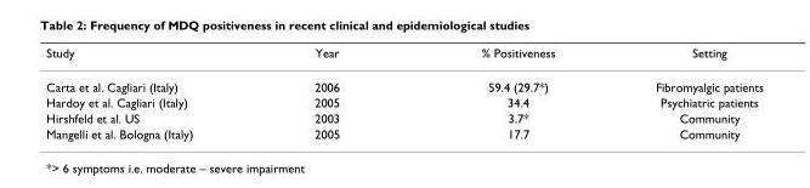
<table><thead><tr><td>Study</td><td>Year</td><td>% Positiveness</td><td>Setting</td></tr></thead><tbody><tr><td>Carta et al. Cagliari (Italy)</td><td>2006</td><td>59.4 (29.7*)</td><td>Fibromyalgic patients</td></tr><tr><td>Hardoy et al. Cagliari (Italy)</td><td>2005</td><td>34.4</td><td>Psychiatric patients</td></tr><tr><td>Hirshfeld et al. US</td><td>2003</td><td>3.7*</td><td>Community</td></tr><tr><td>Mangelli et al. Bologna (Italy)</td><td>2005</td><td>17.7</td><td>Community</td></tr></tbody></table>